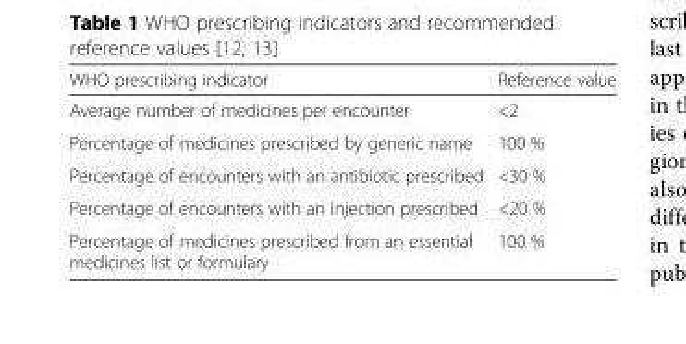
<table><thead><tr><td>WHO prescribing indicator</td><td>Reference value</td></tr></thead><tbody><tr><td>Average number of medicines per encounter</td><td>&lt;2</td></tr><tr><td>Percentage of medicines prescribed by generic name</td><td>100 %</td></tr><tr><td>Percentage of encounters with an antibiotic prescribed</td><td>&lt;30 %</td></tr><tr><td>Percentage of encounters with an injection prescribed</td><td>&lt;20 %</td></tr><tr><td>Percentage of medicines prescribed from an essential medicines list or formulary</td><td>100 %</td></tr></tbody></table>